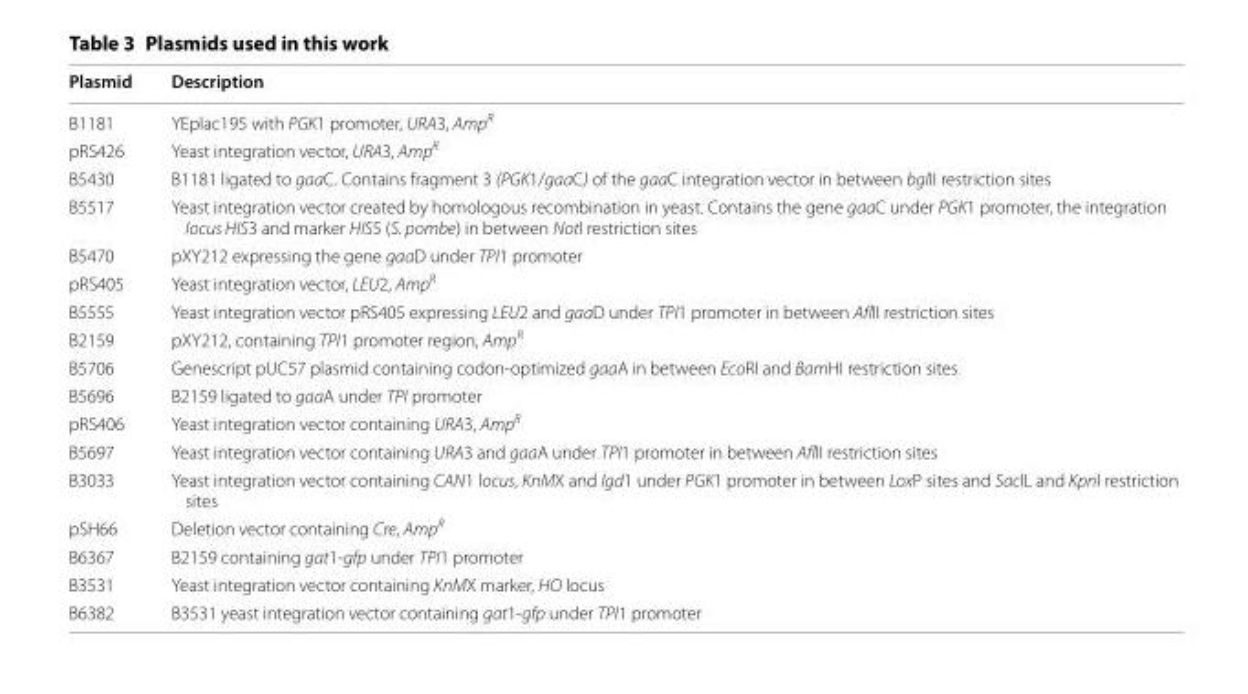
<table><thead><tr><td>Plasmid</td><td>Description</td></tr></thead><tbody><tr><td>B1181</td><td>YEplac195 with PGK1 promoter, URA3, Amp<sup>R</sup></td></tr><tr><td>pRS426</td><td>Yeast integration vector, URA3, Amp<sup>R</sup></td></tr><tr><td>B5430</td><td>B1181 ligated to gaaC. Contains fragment 3 (PGK1/gaaC) of the gaaC integration vector in between bglII restriction sites</td></tr><tr><td>B5517</td><td>Yeast integration vector created by homologous recombination in yeast. Contains the gene gaaC under PGK1 promoter, the integration locus HIS3 and marker HIS5 (S. pombe) in between NotI restriction sites</td></tr><tr><td>B5470</td><td>pXY212 expressing the gene gaaD under TPI1 promoter</td></tr><tr><td>pRS405</td><td>Yeast integration vector, LEU2, Amp<sup>R</sup></td></tr><tr><td>B5555</td><td>Yeast integration vector pRS405 expressing LEU2 and gaaD under TPI1 promoter in between AflII restriction sites</td></tr><tr><td>B2159</td><td>pXY212, containing TPI1 promoter region, Amp<sup>R</sup></td></tr><tr><td>B5706</td><td>Genescript pUC57 plasmid containing codon‑optimized gaaA in between EcoRI and BamHI restriction sites</td></tr><tr><td>B5696</td><td>B2159 ligated to gaaA under TPI promoter</td></tr><tr><td>pRS406</td><td>Yeast integration vector containing URA3, Amp<sup>R</sup></td></tr><tr><td>B5697</td><td>Yeast integration vector containing URA3 and gaaA under TPI1 promoter in between AflII restriction sites</td></tr><tr><td>B3033</td><td>Yeast integration vector containing CAN1 locus, KnMX and lgd1 under PGK1 promoter in between LoxP sites and SaclL and Kpnl restriction sites</td></tr><tr><td>pSH66</td><td>Deletion vector containing Cre, Amp<sup>R</sup></td></tr><tr><td>B6367</td><td>B2159 containing gat1‑gfp under TPI1 promoter</td></tr><tr><td>B3531</td><td>Yeast integration vector containing KnMX marker, HO locus</td></tr><tr><td>B6382</td><td>B3531 yeast integration vector containing gat1‑gfp under TPI1 promoter</td></tr></tbody></table>